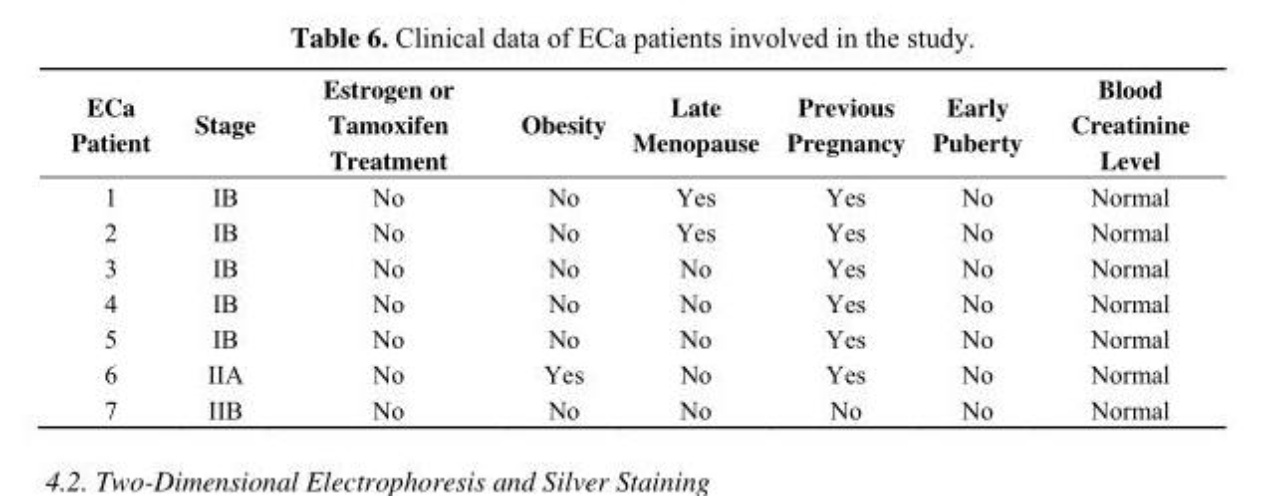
<table><thead><tr><td>ECa Patient</td><td>Stage</td><td>Estrogen or Tamoxifen Treatment</td><td>Obesity</td><td>Late Menopause</td><td>Previous Pregnancy</td><td>Early Puberty</td><td>Blood Creatinine Level</td></tr></thead><tbody><tr><td>1</td><td>IB</td><td>No</td><td>No</td><td>Yes</td><td>Yes</td><td>No</td><td>Normal</td></tr><tr><td>2</td><td>IB</td><td>No</td><td>No</td><td>Yes</td><td>Yes</td><td>No</td><td>Normal</td></tr><tr><td>3</td><td>IB</td><td>No</td><td>No</td><td>No</td><td>Yes</td><td>No</td><td>Normal</td></tr><tr><td>4</td><td>IB</td><td>No</td><td>No</td><td>No</td><td>Yes</td><td>No</td><td>Normal</td></tr><tr><td>5</td><td>IB</td><td>No</td><td>No</td><td>No</td><td>Yes</td><td>No</td><td>Normal</td></tr><tr><td>6</td><td>IIA</td><td>No</td><td>Yes</td><td>No</td><td>Yes</td><td>No</td><td>Normal</td></tr><tr><td>7</td><td>IIB</td><td>No</td><td>No</td><td>No</td><td>No</td><td>No</td><td>Normal</td></tr></tbody></table>